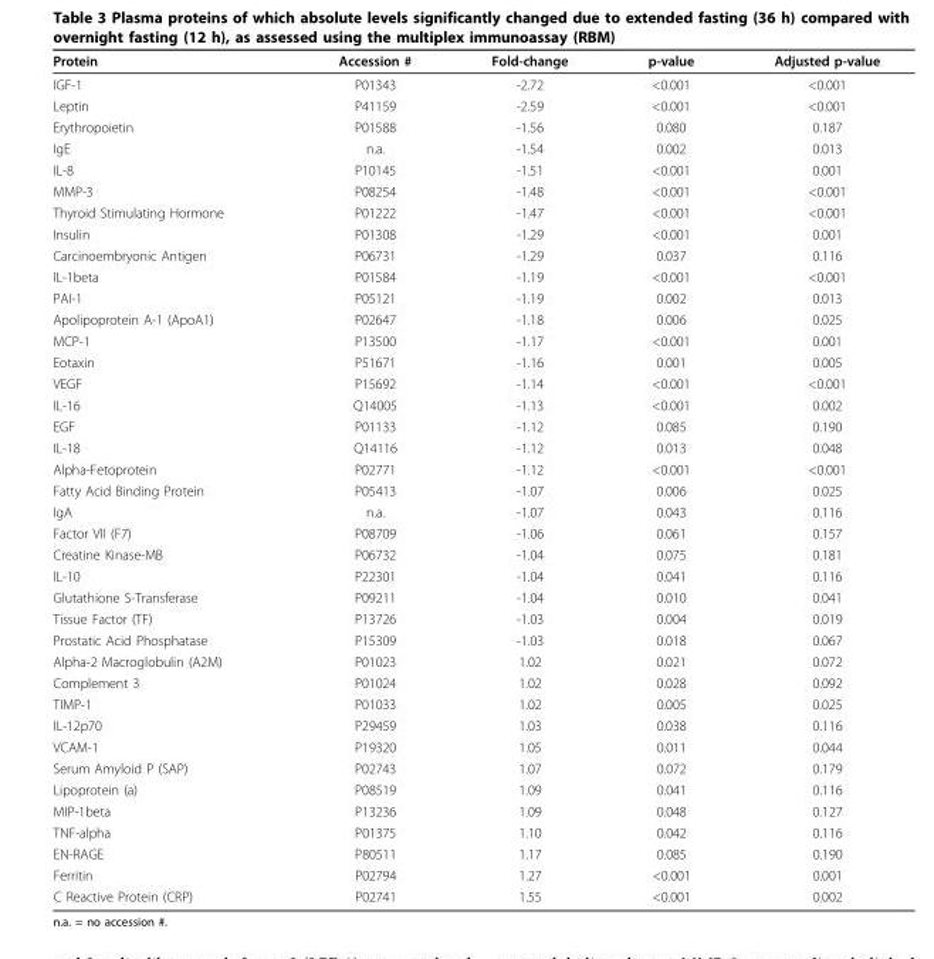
<table><thead><tr><td>Protein</td><td>Accession #</td><td>Fold-change</td><td>p-value</td><td>Adjusted p-value</td></tr></thead><tbody><tr><td>IGF-1</td><td>P01343</td><td>-2.72</td><td>&lt;0.001</td><td>&lt;0.001</td></tr><tr><td>Leptin</td><td>P41159</td><td>-2.59</td><td>&lt;0.001</td><td>&lt;0.001</td></tr><tr><td>Erythropoietin</td><td>P01588</td><td>-1.56</td><td>0.080</td><td>0.187</td></tr><tr><td>IgE</td><td>n.a.</td><td>-1.54</td><td>0.002</td><td>0.013</td></tr><tr><td>IL-8</td><td>P10145</td><td>-1.51</td><td>&lt;0.001</td><td>0.001</td></tr><tr><td>MMP-3</td><td>P08254</td><td>-1.48</td><td>&lt;0.001</td><td>&lt;0.001</td></tr><tr><td>Thyroid Stimulating Hormone</td><td>P01222</td><td>-1.47</td><td>&lt;0.001</td><td>&lt;0.001</td></tr><tr><td>Insulin</td><td>P01308</td><td>-1.29</td><td>&lt;0.001</td><td>0.001</td></tr><tr><td>Carcinoembryonic Antigen</td><td>P06731</td><td>-1.29</td><td>0.037</td><td>0.116</td></tr><tr><td>IL-1beta</td><td>P01584</td><td>-1.19</td><td>&lt;0.001</td><td>&lt;0.001</td></tr><tr><td>PAI-1</td><td>P05121</td><td>-1.19</td><td>0.002</td><td>0.013</td></tr><tr><td>Apolipoprotein A-1 (ApoA1)</td><td>P02647</td><td>-1.18</td><td>0.006</td><td>0.025</td></tr><tr><td>MCP-1</td><td>P13500</td><td>-1.17</td><td>&lt;0.001</td><td>0.001</td></tr><tr><td>Eotaxin</td><td>P51671</td><td>-1.16</td><td>0.001</td><td>0.005</td></tr><tr><td>VEGF</td><td>P15692</td><td>-1.14</td><td>&lt;0.001</td><td>&lt;0.001</td></tr><tr><td>IL-16</td><td>Q14005</td><td>-1.13</td><td>&lt;0.001</td><td>0.002</td></tr><tr><td>EGF</td><td>P01133</td><td>-1.12</td><td>0.085</td><td>0.190</td></tr><tr><td>IL-18</td><td>Q14116</td><td>-1.12</td><td>0.013</td><td>0.048</td></tr><tr><td>Alpha-Fetoprotein</td><td>P02771</td><td>-1.12</td><td>&lt;0.001</td><td>&lt;0.001</td></tr><tr><td>Fatty Acid Binding Protein</td><td>P05413</td><td>-1.07</td><td>0.006</td><td>0.025</td></tr><tr><td>IgA</td><td>n.a.</td><td>-1.07</td><td>0.043</td><td>0.116</td></tr><tr><td>Factor VII (F7)</td><td>P08709</td><td>-1.06</td><td>0.061</td><td>0.157</td></tr><tr><td>Creatine Kinase-MB</td><td>P06732</td><td>-1.04</td><td>0.075</td><td>0.181</td></tr><tr><td>IL-10</td><td>P22301</td><td>-1.04</td><td>0.041</td><td>0.116</td></tr><tr><td>Glutathione S-Transferase</td><td>P09211</td><td>-1.04</td><td>0.010</td><td>0.041</td></tr><tr><td>Tissue Factor (TF)</td><td>P13726</td><td>-1.03</td><td>0.004</td><td>0.019</td></tr><tr><td>Prostatic Acid Phosphatase</td><td>P15309</td><td>-1.03</td><td>0.018</td><td>0.067</td></tr><tr><td>Alpha-2 Macroglobulin (A2M)</td><td>P01023</td><td>1.02</td><td>0.021</td><td>0.072</td></tr><tr><td>Complement 3</td><td>P01024</td><td>1.02</td><td>0.028</td><td>0.092</td></tr><tr><td>TIMP-1</td><td>P01033</td><td>1.02</td><td>0.005</td><td>0.025</td></tr><tr><td>IL-12p70</td><td>P29459</td><td>1.03</td><td>0.038</td><td>0.116</td></tr><tr><td>VCAM-1</td><td>P19320</td><td>1.05</td><td>0.011</td><td>0.044</td></tr><tr><td>Serum Amyloid P (SAP)</td><td>P02743</td><td>1.07</td><td>0.072</td><td>0.179</td></tr><tr><td>Lipoprotein (a)</td><td>P08519</td><td>1.09</td><td>0.041</td><td>0.116</td></tr><tr><td>MIP-1beta</td><td>P13236</td><td>1.09</td><td>0.048</td><td>0.127</td></tr><tr><td>TNF-alpha</td><td>P01375</td><td>1.10</td><td>0.042</td><td>0.116</td></tr><tr><td>EN-RAGE</td><td>P80511</td><td>1.17</td><td>0.085</td><td>0.190</td></tr><tr><td>Ferritin</td><td>P02794</td><td>1.27</td><td>&lt;0.001</td><td>0.001</td></tr><tr><td>C Reactive Protein (CRP)</td><td>P02741</td><td>1.55</td><td>&lt;0.001</td><td>0.002</td></tr></tbody></table>